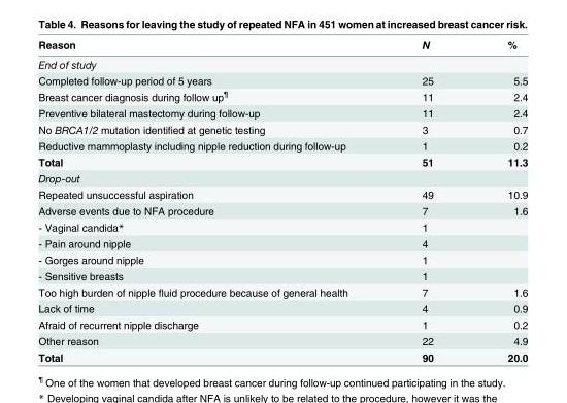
<table><thead><tr><td>Reason</td><td>N</td><td>%</td></tr></thead><tbody><tr><td colspan="3">End of study</td></tr><tr><td>Completed follow-up period of 5 years</td><td>25</td><td>5.5</td></tr><tr><td>Breast cancer diagnosis during follow up<sup>¶</sup></td><td>11</td><td>2.4</td></tr><tr><td>Preventive bilateral mastectomy during follow-up</td><td>11</td><td>2.4</td></tr><tr><td>No BRCA1/2 mutation identified at genetic testing</td><td>3</td><td>0.7</td></tr><tr><td>Reductive mammoplasty including nipple reduction during follow-up</td><td>1</td><td>0.2</td></tr><tr><td>Total</td><td>51</td><td>11.3</td></tr><tr><td colspan="3">Drop-out</td></tr><tr><td>Repeated unsuccessful aspiration</td><td>49</td><td>10.9</td></tr><tr><td>Adverse events due to NFA procedure</td><td>7</td><td>1.6</td></tr><tr><td>- Vaginal candida*</td><td>1</td><td></td></tr><tr><td>- Pain around nipple</td><td>4</td><td></td></tr><tr><td>- Gorges around nipple</td><td>1</td><td></td></tr><tr><td>- Sensitive breasts</td><td>1</td><td></td></tr><tr><td>Too high burden of nipple fluid procedure because of general health</td><td>7</td><td>1.6</td></tr><tr><td>Lack of time</td><td>4</td><td>0.9</td></tr><tr><td>Afraid of recurrent nipple discharge</td><td>1</td><td>0.2</td></tr><tr><td>Other reason</td><td>22</td><td>4.9</td></tr><tr><td>Total</td><td>90</td><td>20.0</td></tr></tbody></table>